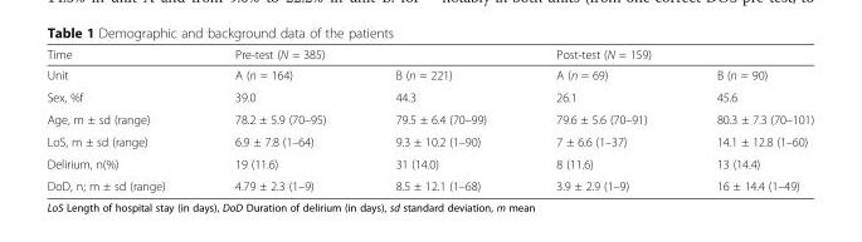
<table><thead><tr><td rowspan="2">Time Unit</td><td colspan="2">Pre-test (N = 385)</td><td colspan="2">Post-test (N = 159)</td></tr><tr><td>A (n = 164)</td><td>B (n = 221)</td><td>A (n = 69)</td><td>B (n = 90)</td></tr></thead><tbody><tr><td>Sex, %f</td><td>39.0</td><td>44.3</td><td>26.1</td><td>45.6</td></tr><tr><td>Age, m ± sd (range)</td><td>78.2 ± 5.9 (70–95)</td><td>79.5 ± 6.4 (70–99)</td><td>79.6 ± 5.6 (70–91)</td><td>80.3 ± 7.3 (70–101)</td></tr><tr><td>LoS, m ± sd (range)</td><td>6.9 ± 7.8 (1–64)</td><td>9.3 ± 10.2 (1–90)</td><td>7 ± 6.6 (1–37)</td><td>14.1 ± 12.8 (1–60)</td></tr><tr><td>Delirium, n(%)</td><td>19 (11.6)</td><td>31 (14.0)</td><td>8 (11.6)</td><td>13 (14.4)</td></tr><tr><td>DoD, n; m ± sd (range)</td><td>4.79 ± 2.3 (1–9)</td><td>8.5 ± 12.1 (1–68)</td><td>3.9 ± 2.9 (1–9)</td><td>16 ± 14.4 (1–49)</td></tr></tbody></table>